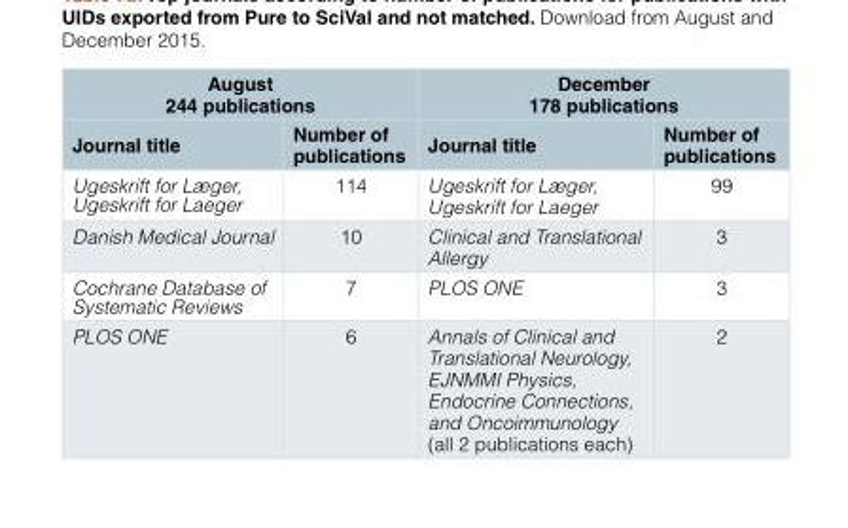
<table><thead><tr><td colspan="2">August 244 publications</td><td colspan="2">December 178 publications</td></tr><tr><td>Journal title</td><td>Number of publications</td><td>Journal title</td><td>Number of publications</td></tr></thead><tbody><tr><td>Ugeskrift for Læger, Ugeskrift for Laeger</td><td>114</td><td>Ugeskrift for Læger, Ugeskrift for Laeger</td><td>99</td></tr><tr><td>Danish Medical Journal</td><td>10</td><td>Clinical and Translational Allergy</td><td>3</td></tr><tr><td>Cochrane Database of Systematic Reviews</td><td>7</td><td>PLOS ONE</td><td>3</td></tr><tr><td>PLOS ONE</td><td>6</td><td>Annals of Clinical and Translational Neurology, EJNMMI Physics, Endocrine Connections, and Oncoimmunology (all 2 publications each)</td><td>2</td></tr></tbody></table>